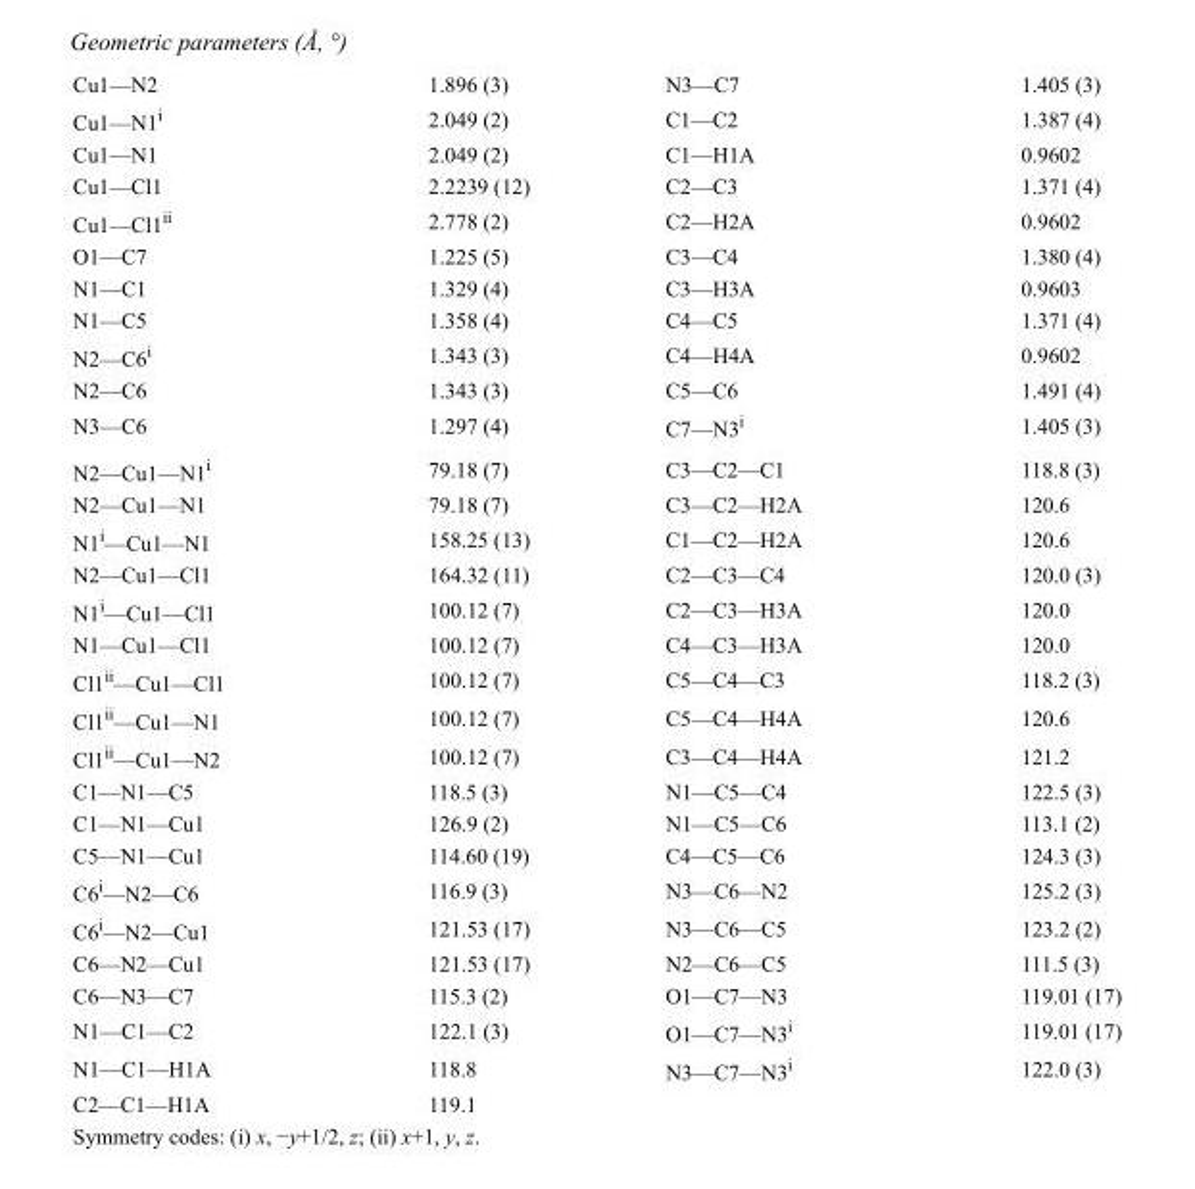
<table><tbody><tr><td>Cu1—N2</td><td>1.896 (3)</td><td>N3—C7</td><td>1.405 (3)</td></tr><tr><td>Cu1—N1<sup>i</sup></td><td>2.049 (2)</td><td>C1—C2</td><td>1.387 (4)</td></tr><tr><td>Cu1—N1</td><td>2.049 (2)</td><td>C1—H1A</td><td>0.9602</td></tr><tr><td>Cu1—Cl1</td><td>2.2239 (12)</td><td>C2—C3</td><td>1.371 (4)</td></tr><tr><td>Cu1—Cl1<sup>ii</sup></td><td>2.778 (2)</td><td>C2—H2A</td><td>0.9602</td></tr><tr><td>O1—C7</td><td>1.225 (5)</td><td>C3—C4</td><td>1.380 (4)</td></tr><tr><td>N1—C1</td><td>1.329 (4)</td><td>C3—H3A</td><td>0.9603</td></tr><tr><td>N1—C5</td><td>1.358 (4)</td><td>C4—C5</td><td>1.371 (4)</td></tr><tr><td>N2—C6<sup>i</sup></td><td>1.343 (3)</td><td>C4—H4A</td><td>0.9602</td></tr><tr><td>N2—C6</td><td>1.343 (3)</td><td>C5—C6</td><td>1.491 (4)</td></tr><tr><td>N3—C6</td><td>1.297 (4)</td><td>C7—N3<sup>i</sup></td><td>1.405 (3)</td></tr><tr><td>N2—Cu1—N1<sup>i</sup></td><td>79.18 (7)</td><td>C3—C2—C1</td><td>118.8 (3)</td></tr><tr><td>N2—Cu1—N1</td><td>79.18 (7)</td><td>C3—C2—H2A</td><td>120.6</td></tr><tr><td>N1<sup>i</sup>—Cu1—N1</td><td>158.25 (13)</td><td>C1—C2—H2A</td><td>120.6</td></tr><tr><td>N2—Cu1—Cl1</td><td>164.32 (11)</td><td>C2—C3—C4</td><td>120.0 (3)</td></tr><tr><td>N1<sup>i</sup>—Cu1—Cl1</td><td>100.12 (7)</td><td>C2—C3—H3A</td><td>120.0</td></tr><tr><td>N1—Cu1—Cl1</td><td>100.12 (7)</td><td>C4—C3—H3A</td><td>120.0</td></tr><tr><td>Cl1<sup>ii</sup>—Cu1—Cl1</td><td>100.12 (7)</td><td>C5—C4—C3</td><td>118.2 (3)</td></tr><tr><td>Cl1<sup>ii</sup>—Cu1—N1</td><td>100.12 (7)</td><td>C5—C4—H4A</td><td>120.6</td></tr><tr><td>Cl1<sup>ii</sup>—Cu1—N2</td><td>100.12 (7)</td><td>C3—C4—H4A</td><td>121.2</td></tr><tr><td>C1—N1—C5</td><td>118.5 (3)</td><td>N1—C5—C4</td><td>122.5 (3)</td></tr><tr><td>C1—N1—Cu1</td><td>126.9 (2)</td><td>N1—C5—C6</td><td>113.1 (2)</td></tr><tr><td>C5—N1—Cu1</td><td>114.60 (19)</td><td>C4—C5—C6</td><td>124.3 (3)</td></tr><tr><td>C6<sup>i</sup>—N2—C6</td><td>116.9 (3)</td><td>N3—C6—N2</td><td>125.2 (3)</td></tr><tr><td>C6<sup>i</sup>—N2—Cu1</td><td>121.53 (17)</td><td>N3—C6—C5</td><td>123.2 (2)</td></tr><tr><td>C6—N2—Cu1</td><td>121.53 (17)</td><td>N2—C6—C5</td><td>111.5 (3)</td></tr><tr><td>C6—N3—C7</td><td>115.3 (2)</td><td>O1—C7—N3</td><td>119.01 (17)</td></tr><tr><td>N1—C1—C2</td><td>122.1 (3)</td><td>O1—C7—N3<sup>i</sup></td><td>119.01 (17)</td></tr><tr><td>N1—C1—H1A</td><td>118.8</td><td>N3—C7—N3<sup>i</sup></td><td>122.0 (3)</td></tr><tr><td>C2—C1—H1A</td><td>119.1</td><td></td><td></td></tr></tbody></table>